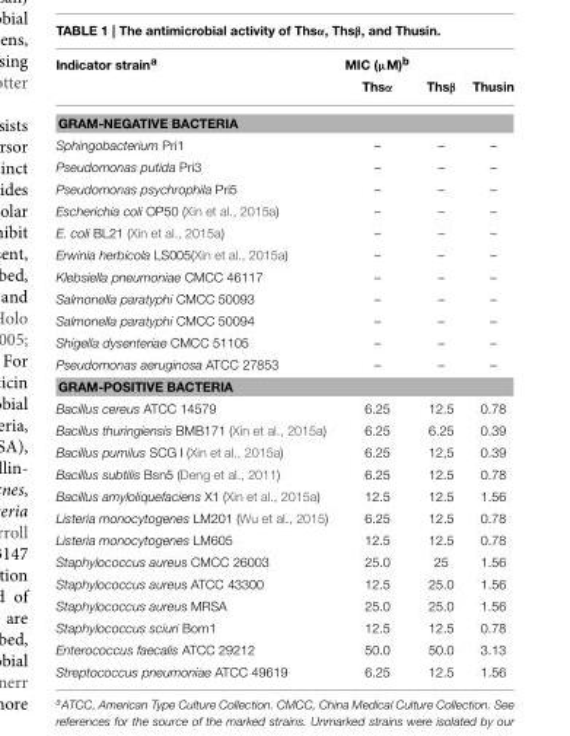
<table><thead><tr><td rowspan="2">Indicator strain<sup>a</sup></td><td rowspan="2">MIC (µM)<sup>b</sup> Thsα</td><td rowspan="2">Thsβ</td><td rowspan="2">Thusin</td></tr><tr></tr></thead><tbody><tr><td colspan="4">GRAM-NEGATIVE BACTERIA</td></tr><tr><td>Sphingobacterium Pri1</td><td>–</td><td>–</td><td>–</td></tr><tr><td>Pseudomonas putida Pri3</td><td>–</td><td>–</td><td>–</td></tr><tr><td>Pseudomonas psychrophila Pri5</td><td>–</td><td>–</td><td>–</td></tr><tr><td>Escherichia coli OP50 (Xin et al., 2015a)</td><td>–</td><td>–</td><td>–</td></tr><tr><td>E. coli BL21 (Xin et al., 2015a)</td><td>–</td><td>–</td><td>–</td></tr><tr><td>Erwinia herbicola LS005(Xin et al., 2015a)</td><td>–</td><td>–</td><td>–</td></tr><tr><td>Klebsiella pneumoniae CMCC 46117</td><td>–</td><td>–</td><td>–</td></tr><tr><td>Salmonella paratyphi CMCC 50093</td><td>–</td><td>–</td><td>–</td></tr><tr><td>Salmonella paratyphi CMCC 50094</td><td>–</td><td>–</td><td>–</td></tr><tr><td>Shigella dysenteriae CMCC 51105</td><td>–</td><td>–</td><td>–</td></tr><tr><td>Pseudomonas aeruginosa ATCC 27853</td><td>–</td><td>–</td><td>–</td></tr><tr><td colspan="4">GRAM-POSITIVE BACTERIA</td></tr><tr><td>Bacillus cereus ATCC 14579</td><td>6.25</td><td>12.5</td><td>0.78</td></tr><tr><td>Bacillus thuringiensis BMB171 (Xin et al., 2015a)</td><td>6.25</td><td>6.25</td><td>0.39</td></tr><tr><td>Bacillus pumilus SCG I (Xin et al., 2015a)</td><td>6.25</td><td>12,5</td><td>0.39</td></tr><tr><td>Bacillus subtilis Bsn5 (Deng et al., 2011)</td><td>6.25</td><td>12.5</td><td>0.78</td></tr><tr><td>Bacillus amyloliquefaciens X1 (Xin et al., 2015a)</td><td>12.5</td><td>12.5</td><td>1.56</td></tr><tr><td>Listeria monocytogenes LM201 (Wu et al., 2015)</td><td>6.25</td><td>12.5</td><td>0.78</td></tr><tr><td>Listeria monocytogenes LM605</td><td>12.5</td><td>12.5</td><td>0.78</td></tr><tr><td>Staphylococcus aureus CMCC 26003</td><td>25.0</td><td>25</td><td>1.56</td></tr><tr><td>Staphylococcus aureus ATCC 43300</td><td>12.5</td><td>25.0</td><td>1.56</td></tr><tr><td>Staphylococcus aureus MRSA</td><td>25.0</td><td>25.0</td><td>1.56</td></tr><tr><td>Staphylococcus sciuri Bom1</td><td>12.5</td><td>12.5</td><td>0.78</td></tr><tr><td>Enterococcus faecalis ATCC 29212</td><td>50.0</td><td>50.0</td><td>3.13</td></tr><tr><td>Streptococcus pneumoniae ATCC 49619</td><td>6.25</td><td>12.5</td><td>1.56</td></tr></tbody></table>